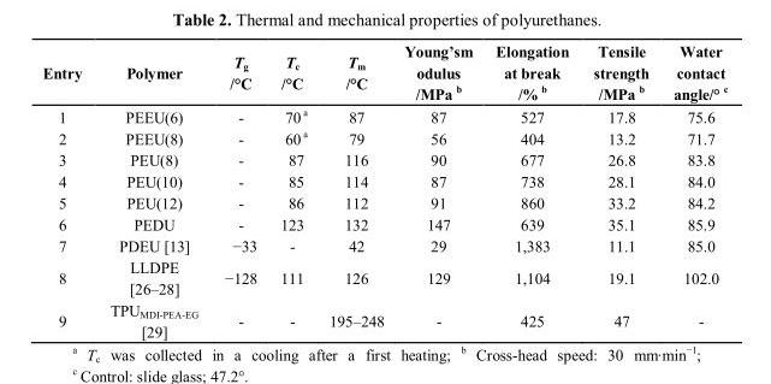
<table><thead><tr><td>Entry</td><td>Polymer</td><td>T<sub>g</sub> /°C</td><td>T<sub>c</sub> /°C</td><td>T<sub>m</sub> /°C</td><td>Young’sm odulus /MPa b</td><td>Elongation at break /% b</td><td>Tensile strength /MPa b</td><td>Water contact angle/° c</td></tr></thead><tbody><tr><td>1</td><td>PEEU(6)</td><td>-</td><td>70 a</td><td>87</td><td>87</td><td>527</td><td>17.8</td><td>75.6</td></tr><tr><td>2</td><td>PEEU(8)</td><td>-</td><td>60 a</td><td>79</td><td>56</td><td>404</td><td>13.2</td><td>71.7</td></tr><tr><td>3</td><td>PEU(8)</td><td>-</td><td>87</td><td>116</td><td>90</td><td>677</td><td>26.8</td><td>83.8</td></tr><tr><td>4</td><td>PEU(10)</td><td>-</td><td>85</td><td>114</td><td>87</td><td>738</td><td>28.1</td><td>84.0</td></tr><tr><td>5</td><td>PEU(12)</td><td>-</td><td>86</td><td>112</td><td>91</td><td>860</td><td>33.2</td><td>84.2</td></tr><tr><td>6</td><td>PEDU</td><td>-</td><td>123</td><td>132</td><td>147</td><td>639</td><td>35.1</td><td>85.9</td></tr><tr><td>7</td><td>PDEU [13]</td><td>−33</td><td>-</td><td>42</td><td>29</td><td>1,383</td><td>11.1</td><td>85.0</td></tr><tr><td>8</td><td>LLDPE [26–28]</td><td>−128</td><td>111</td><td>126</td><td>129</td><td>1,104</td><td>19.1</td><td>102.0</td></tr><tr><td>9</td><td>TPU<sub>MDI-PEA-EG</sub> [29]</td><td>-</td><td>-</td><td>195–248</td><td>-</td><td>425</td><td>47</td><td>-</td></tr></tbody></table>